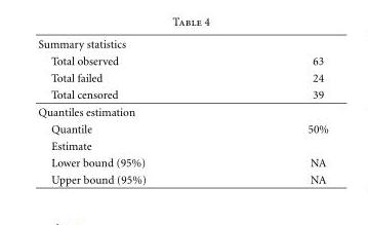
<table><tbody><tr><td colspan="2">Summary statistics</td></tr><tr><td>Total observed</td><td>63</td></tr><tr><td>Total failed</td><td>24</td></tr><tr><td>Total censored</td><td>39</td></tr><tr><td colspan="2">Quantiles estimation</td></tr><tr><td>Quantile</td><td>50%</td></tr><tr><td colspan="2">Estimate</td></tr><tr><td>Lower bound (95%)</td><td>NA</td></tr><tr><td>Upper bound (95%)</td><td>NA</td></tr></tbody></table>